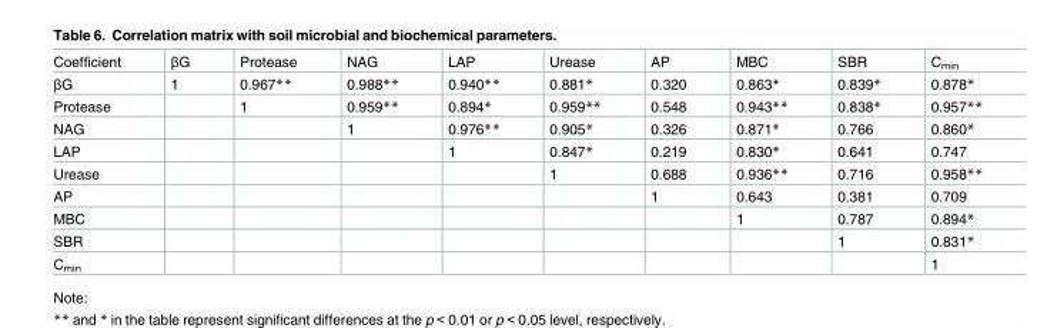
<table><tbody><tr><td>Coefficient</td><td>βG</td><td>Protease</td><td>NAG</td><td>LAP</td><td>Urease</td><td>AP</td><td>MBC</td><td>SBR</td><td>C<sub>min</sub></td></tr><tr><td>βG</td><td>1</td><td>0.967**</td><td>0.988**</td><td>0.940**</td><td>0.881*</td><td>0.320</td><td>0.863*</td><td>0.839*</td><td>0.878*</td></tr><tr><td>Protease</td><td></td><td>1</td><td>0.959**</td><td>0.894*</td><td>0.959**</td><td>0.548</td><td>0.943**</td><td>0.838*</td><td>0.957**</td></tr><tr><td>NAG</td><td></td><td></td><td>1</td><td>0.976**</td><td>0.905*</td><td>0.326</td><td>0.871*</td><td>0.766</td><td>0.860*</td></tr><tr><td>LAP</td><td></td><td></td><td></td><td>1</td><td>0.847*</td><td>0.219</td><td>0.830*</td><td>0.641</td><td>0.747</td></tr><tr><td>Urease</td><td></td><td></td><td></td><td></td><td>1</td><td>0.688</td><td>0.936**</td><td>0.716</td><td>0.958**</td></tr><tr><td>AP</td><td></td><td></td><td></td><td></td><td></td><td>1</td><td>0.643</td><td>0.381</td><td>0.709</td></tr><tr><td>MBC</td><td></td><td></td><td></td><td></td><td></td><td></td><td>1</td><td>0.787</td><td>0.894*</td></tr><tr><td>SBR</td><td></td><td></td><td></td><td></td><td></td><td></td><td></td><td>1</td><td>0.831*</td></tr><tr><td>C<sub>min</sub></td><td></td><td></td><td></td><td></td><td></td><td></td><td></td><td></td><td>1</td></tr></tbody></table>